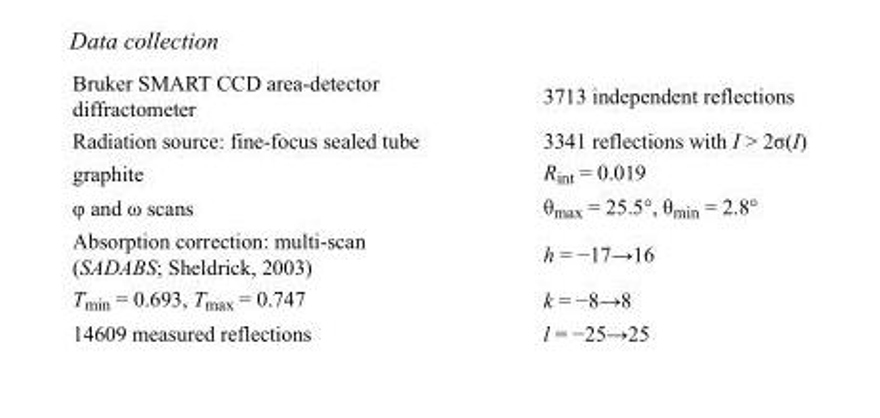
<table><tbody><tr><td>Bruker SMART CCD area-detector diffractometer</td><td>3713 independent reflections</td></tr><tr><td>Radiation source: fine-focus sealed tube</td><td>3341 reflections with I &gt; 2σ(I)</td></tr><tr><td>graphite</td><td>R<sub>int</sub> = 0.019</td></tr><tr><td>φ and ω scans</td><td>θ<sub>max</sub> = 25.5°, θ<sub>min</sub> = 2.8°</td></tr><tr><td>Absorption correction: multi-scan (SADABS; Sheldrick, 2003)</td><td>h = −17→16</td></tr><tr><td>T<sub>min</sub> = 0.693, T<sub>max</sub> = 0.747</td><td>k = −8→8</td></tr><tr><td>14609 measured reflections</td><td>l = −25→25</td></tr></tbody></table>